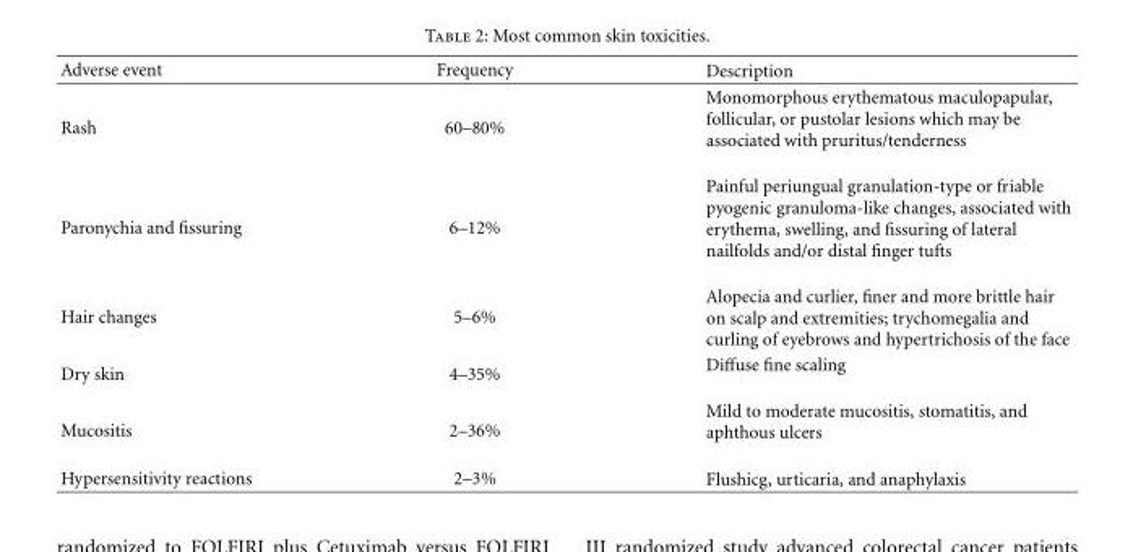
<table><thead><tr><td>Adverse event</td><td>Frequency</td><td>Description</td></tr></thead><tbody><tr><td>Rash</td><td>60–80%</td><td>Monomorphous erythematous maculopapular, follicular, or pustolar lesions which may be associated with pruritus/tenderness</td></tr><tr><td>Paronychia and fissuring</td><td>6–12%</td><td>Painful periungual granulation-type or friable pyogenic granuloma-like changes, associated with erythema, swelling, and fissuring of lateral nailfolds and/or distal finger tufts</td></tr><tr><td>Hair changes</td><td>5–6%</td><td>Alopecia and curlier, finer and more brittle hair on scalp and extremities; trychomegalia and curling of eyebrows and hypertrichosis of the face</td></tr><tr><td>Dry skin</td><td>4–35%</td><td>Diffuse fine scaling</td></tr><tr><td>Mucositis</td><td>2–36%</td><td>Mild to moderate mucositis, stomatitis, and aphthous ulcers</td></tr><tr><td>Hypersensitivity reactions</td><td>2–3%</td><td>Flushicg, urticaria, and anaphylaxis</td></tr></tbody></table>